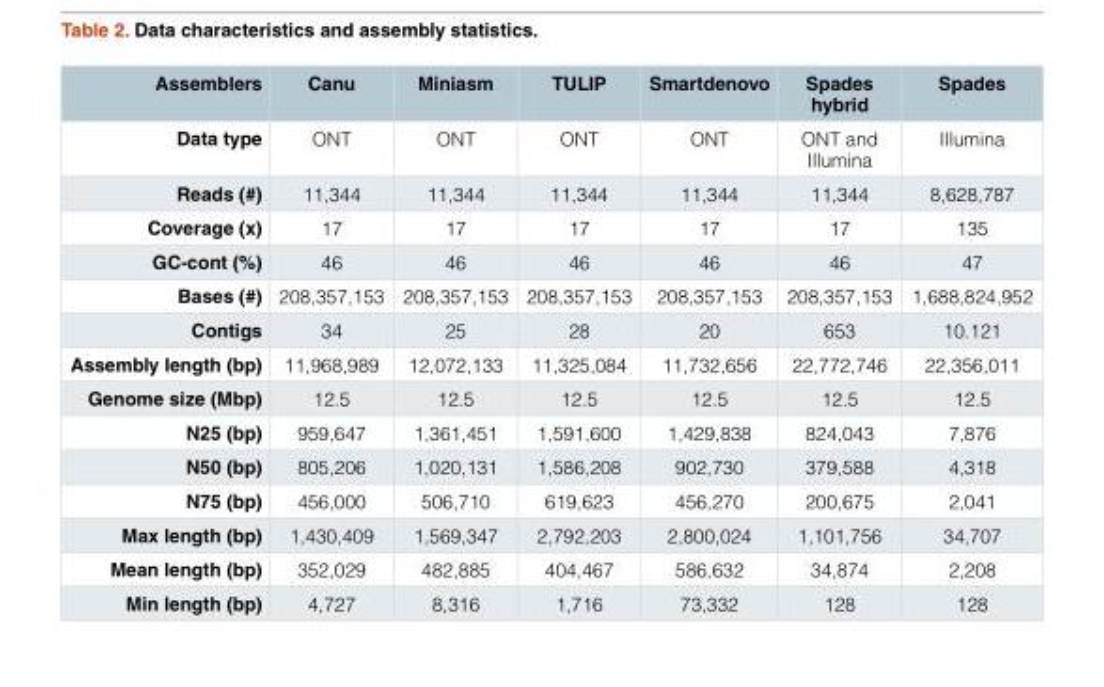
<table><thead><tr><td>Assemblers</td><td>Canu</td><td>Miniasm</td><td>TULIP</td><td>Smartdenovo</td><td>Spades hybrid</td><td>Spades</td></tr></thead><tbody><tr><td>Data type</td><td>ONT</td><td>ONT</td><td>ONT</td><td>ONT</td><td>ONT and Illumina</td><td>Illumina</td></tr><tr><td>Reads (#)</td><td>11,344</td><td>11,344</td><td>11,344</td><td>11,344</td><td>11,344</td><td>8,628,787</td></tr><tr><td>Coverage (x)</td><td>17</td><td>17</td><td>17</td><td>17</td><td>17</td><td>135</td></tr><tr><td>GC-cont (%)</td><td>46</td><td>46</td><td>46</td><td>46</td><td>46</td><td>47</td></tr><tr><td>Bases (#)</td><td>208,357,153</td><td>208,357,153</td><td>208,357,153</td><td>208,357,153</td><td>208,357,153</td><td>1,688,824,952</td></tr><tr><td>Contigs</td><td>34</td><td>25</td><td>28</td><td>20</td><td>653</td><td>10.121</td></tr><tr><td>Assembly length (bp)</td><td>11,968,989</td><td>12,072,133</td><td>11,325,084</td><td>11,732,656</td><td>22,772,746</td><td>22,356,011</td></tr><tr><td>Genome size (Mbp)</td><td>12.5</td><td>12.5</td><td>12.5</td><td>12.5</td><td>12.5</td><td>12.5</td></tr><tr><td>N25 (bp)</td><td>959,647</td><td>1,361,451</td><td>1,591,600</td><td>1,429,838</td><td>824,043</td><td>7,876</td></tr><tr><td>N50 (bp)</td><td>805,206</td><td>1,020,131</td><td>1,586,208</td><td>902,730</td><td>379,588</td><td>4,318</td></tr><tr><td>N75 (bp)</td><td>456,000</td><td>506,710</td><td>619,623</td><td>456,270</td><td>200,675</td><td>2,041</td></tr><tr><td>Max length (bp)</td><td>1,430,409</td><td>1,569,347</td><td>2,792,203</td><td>2,800,024</td><td>1,101,756</td><td>34,707</td></tr><tr><td>Mean length (bp)</td><td>352,029</td><td>482,885</td><td>404,467</td><td>586,632</td><td>34,874</td><td>2,208</td></tr><tr><td>Min length (bp)</td><td>4,727</td><td>8,316</td><td>1,716</td><td>73,332</td><td>128</td><td>128</td></tr></tbody></table>